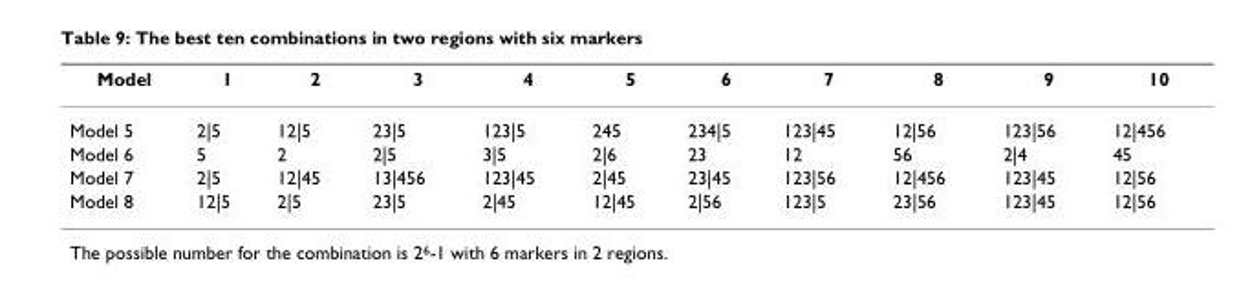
<table><thead><tr><td>Model</td><td>1</td><td>2</td><td>3</td><td>4</td><td>5</td><td>6</td><td>7</td><td>8</td><td>9</td><td>10</td></tr></thead><tbody><tr><td>Model 5</td><td>2|5</td><td>12|5</td><td>23|5</td><td>123|5</td><td>245</td><td>234|5</td><td>123|45</td><td>12|56</td><td>123|56</td><td>12|456</td></tr><tr><td>Model 6</td><td>5</td><td>2</td><td>2|5</td><td>3|5</td><td>2|6</td><td>23</td><td>12</td><td>56</td><td>2|4</td><td>45</td></tr><tr><td>Model 7</td><td>2|5</td><td>12|45</td><td>13|456</td><td>123|45</td><td>2|45</td><td>23|45</td><td>123|56</td><td>12|456</td><td>123|45</td><td>12|56</td></tr><tr><td>Model 8</td><td>12|5</td><td>2|5</td><td>23|5</td><td>2|45</td><td>12|45</td><td>2|56</td><td>123|5</td><td>23|56</td><td>123|45</td><td>12|56</td></tr></tbody></table>